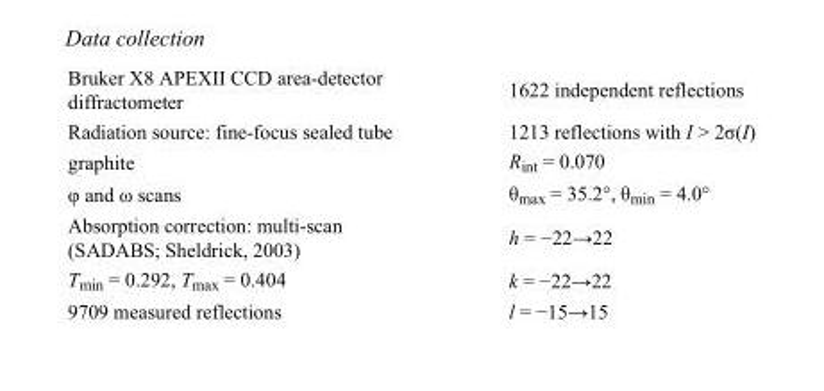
<table><tbody><tr><td>Bruker X8 APEXII CCD area-detector diffractometer</td><td>1622 independent reflections</td></tr><tr><td>Radiation source: fine-focus sealed tube</td><td>1213 reflections with I &gt; 2σ(I)</td></tr><tr><td>graphite</td><td>R<sub>int</sub> = 0.070</td></tr><tr><td>φ and ω scans</td><td>θ<sub>max</sub> = 35.2°, θ<sub>min</sub> = 4.0°</td></tr><tr><td>Absorption correction: multi-scan (SADABS; Sheldrick, 2003)</td><td>h = −22→22</td></tr><tr><td>T<sub>min</sub> = 0.292, T<sub>max</sub> = 0.404</td><td>k = −22→22</td></tr><tr><td>9709 measured reflections</td><td>l = −15→15</td></tr></tbody></table>